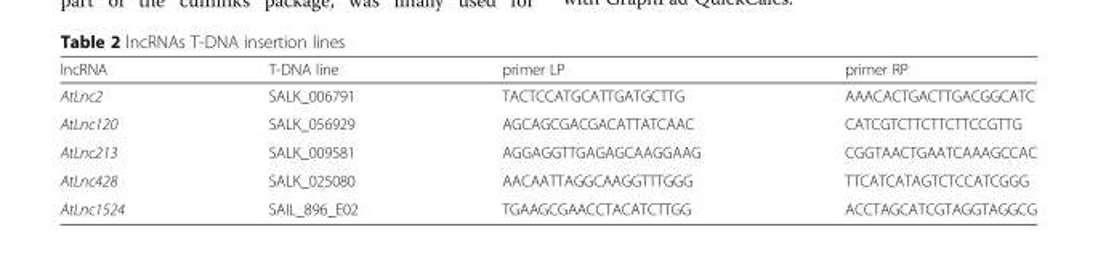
<table><thead><tr><td>lncRNA</td><td>T-DNA line</td><td>primer LP</td><td>primer RP</td></tr></thead><tbody><tr><td>AtLnc2</td><td>SALK_006791</td><td>TACTCCATGCATTGATGCTTG</td><td>AAACACTGACTTGACGGCATC</td></tr><tr><td>AtLnc120</td><td>SALK_056929</td><td>AGCAGCGACGACATTATCAAC</td><td>CATCGTCTTCTTCTTCCGTTG</td></tr><tr><td>AtLnc213</td><td>SALK_009581</td><td>AGGAGGTTGAGAGCAAGGAAG</td><td>CGGTAACTGAATCAAAGCCAC</td></tr><tr><td>AtLnc428</td><td>SALK_025080</td><td>AACAATTAGGCAAGGTTTGGG</td><td>TTCATCATAGTCTCCATCGGG</td></tr><tr><td>AtLnc1524</td><td>SAIL_896_E02</td><td>TGAAGCGAACCTACATCTTGG</td><td>ACCTAGCATCGTAGGTAGGCG</td></tr></tbody></table>